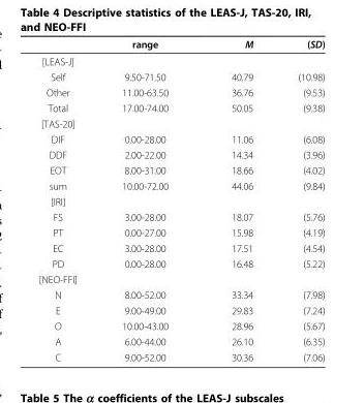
<table><thead><tr><td></td><td>range</td><td>M</td><td>(SD)</td></tr></thead><tbody><tr><td colspan="4">[LEAS-J]</td></tr><tr><td>Self</td><td>9.50-71.50</td><td>40.79</td><td>(10.98)</td></tr><tr><td>Other</td><td>11.00-63.50</td><td>36.76</td><td>(9.53)</td></tr><tr><td>Total</td><td>17.00-74.00</td><td>50.05</td><td>(9.38)</td></tr><tr><td colspan="4">[TAS-20]</td></tr><tr><td>DIF</td><td>0.00-28.00</td><td>11.06</td><td>(6.08)</td></tr><tr><td>DDF</td><td>2.00-22.00</td><td>14.34</td><td>(3.96)</td></tr><tr><td>EOT</td><td>8.00-31.00</td><td>18.66</td><td>(4.02)</td></tr><tr><td>sum</td><td>10.00-72.00</td><td>44.06</td><td>(9.84)</td></tr><tr><td colspan="4">[IRI]</td></tr><tr><td>FS</td><td>3.00-28.00</td><td>18.07</td><td>(5.76)</td></tr><tr><td>PT</td><td>0.00-27.00</td><td>15.98</td><td>(4.19)</td></tr><tr><td>EC</td><td>3.00-28.00</td><td>17.51</td><td>(4.54)</td></tr><tr><td>PD</td><td>0.00-28.00</td><td>16.48</td><td>(5.22)</td></tr><tr><td colspan="4">[NEO-FFI]</td></tr><tr><td>N</td><td>8.00-52.00</td><td>33.34</td><td>(7.98)</td></tr><tr><td>E</td><td>9.00-49.00</td><td>29.83</td><td>(7.24)</td></tr><tr><td>O</td><td>10.00-43.00</td><td>28.96</td><td>(5.67)</td></tr><tr><td>A</td><td>6.00-44.00</td><td>26.10</td><td>(6.35)</td></tr><tr><td>C</td><td>9.00-52.00</td><td>30.36</td><td>(7.06)</td></tr></tbody></table>